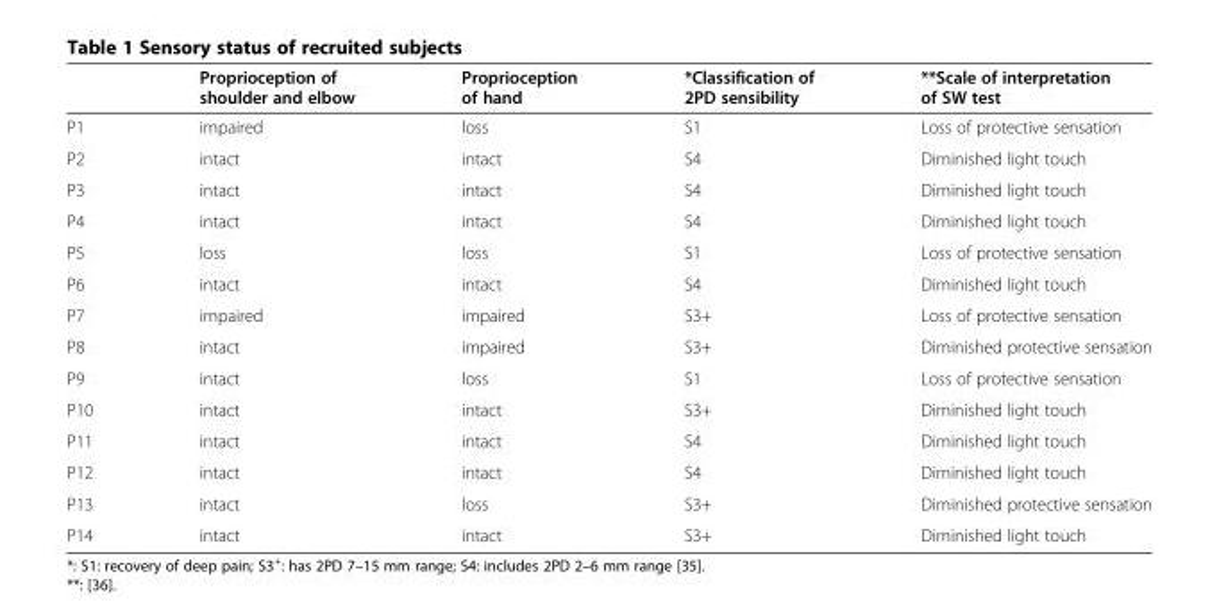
<table><thead><tr><td></td><td>Proprioception of shoulder and elbow</td><td>Proprioception of hand</td><td>*Classification of 2PD sensibility</td><td>**Scale of interpretation of SW test</td></tr></thead><tbody><tr><td>P1</td><td>impaired</td><td>loss</td><td>S1</td><td>Loss of protective sensation</td></tr><tr><td>P2</td><td>intact</td><td>intact</td><td>S4</td><td>Diminished light touch</td></tr><tr><td>P3</td><td>intact</td><td>intact</td><td>S4</td><td>Diminished light touch</td></tr><tr><td>P4</td><td>intact</td><td>intact</td><td>S4</td><td>Diminished light touch</td></tr><tr><td>P5</td><td>loss</td><td>loss</td><td>S1</td><td>Loss of protective sensation</td></tr><tr><td>P6</td><td>intact</td><td>intact</td><td>S4</td><td>Diminished light touch</td></tr><tr><td>P7</td><td>impaired</td><td>impaired</td><td>S3+</td><td>Loss of protective sensation</td></tr><tr><td>P8</td><td>intact</td><td>impaired</td><td>S3+</td><td>Diminished protective sensation</td></tr><tr><td>P9</td><td>intact</td><td>loss</td><td>S1</td><td>Loss of protective sensation</td></tr><tr><td>P10</td><td>intact</td><td>intact</td><td>S3+</td><td>Diminished light touch</td></tr><tr><td>P11</td><td>intact</td><td>intact</td><td>S4</td><td>Diminished light touch</td></tr><tr><td>P12</td><td>intact</td><td>intact</td><td>S4</td><td>Diminished light touch</td></tr><tr><td>P13</td><td>intact</td><td>loss</td><td>S3+</td><td>Diminished protective sensation</td></tr><tr><td>P14</td><td>intact</td><td>intact</td><td>S3+</td><td>Diminished light touch</td></tr></tbody></table>